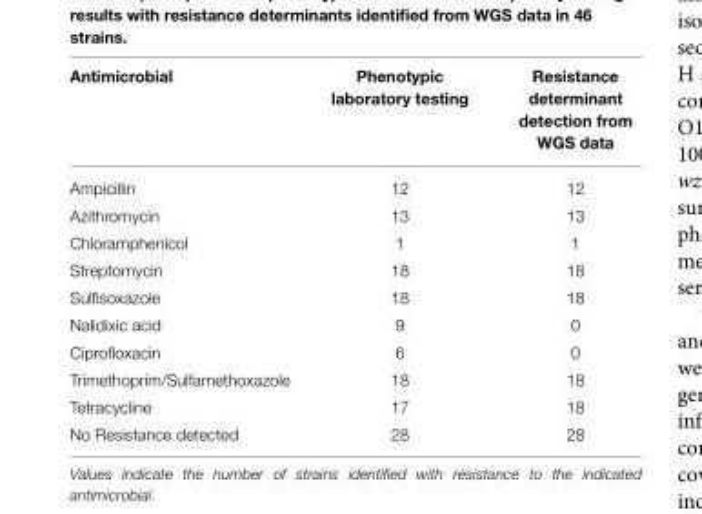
<table><thead><tr><td>Antimicrobial</td><td>Phenotypic laboratory testing</td><td>Resistance determinant detection from WGS data</td></tr></thead><tbody><tr><td>Ampicillin</td><td>12</td><td>12</td></tr><tr><td>Azithromycin</td><td>13</td><td>13</td></tr><tr><td>Chloramphenicol</td><td>1</td><td>1</td></tr><tr><td>Streptomycin</td><td>18</td><td>18</td></tr><tr><td>Sulfisoxazole</td><td>18</td><td>18</td></tr><tr><td>Nalidixic acid</td><td>9</td><td>0</td></tr><tr><td>Ciprofloxacin</td><td>6</td><td>0</td></tr><tr><td>Trimethoprim/Sulfamethoxazole</td><td>18</td><td>18</td></tr><tr><td>Tetracycline</td><td>17</td><td>18</td></tr><tr><td>No Resistance detected</td><td>28</td><td>28</td></tr></tbody></table>